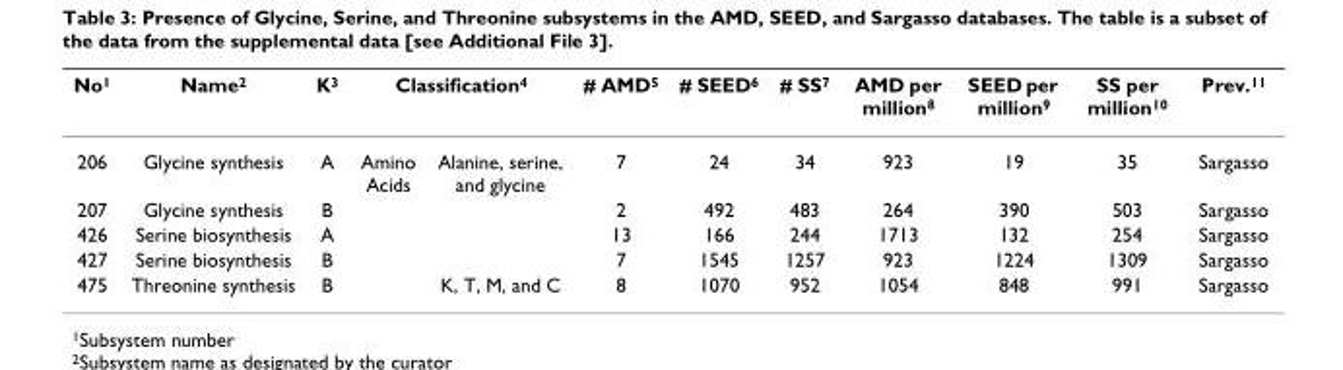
<table><thead><tr><td rowspan="2">No1 206</td><td rowspan="2">Name2 Glycine synthesis</td><td rowspan="2">K3 A</td><td colspan="2">Classification4</td><td rowspan="2"># AMD5 7</td><td rowspan="2"># SEED6 24</td><td rowspan="2"># SS7 34</td><td rowspan="2">AMD per million8 923</td><td rowspan="2">SEED per million9 19</td><td rowspan="2">SS per million10 35</td><td rowspan="2">Prev.11 Sargasso</td></tr><tr><td>Amino Acids</td><td>Alanine, serine, and glycine</td></tr></thead><tbody><tr><td>207</td><td>Glycine synthesis</td><td>B</td><td></td><td></td><td>2</td><td>492</td><td>483</td><td>264</td><td>390</td><td>503</td><td>Sargasso</td></tr><tr><td>426</td><td>Serine biosynthesis</td><td>A</td><td></td><td></td><td>13</td><td>166</td><td>244</td><td>1713</td><td>132</td><td>254</td><td>Sargasso</td></tr><tr><td>427</td><td>Serine biosynthesis</td><td>B</td><td></td><td></td><td>7</td><td>1545</td><td>1257</td><td>923</td><td>1224</td><td>1309</td><td>Sargasso</td></tr><tr><td>475</td><td>Threonine synthesis</td><td>B</td><td></td><td>K, T, M, and C</td><td>8</td><td>1070</td><td>952</td><td>1054</td><td>848</td><td>991</td><td>Sargasso</td></tr></tbody></table>